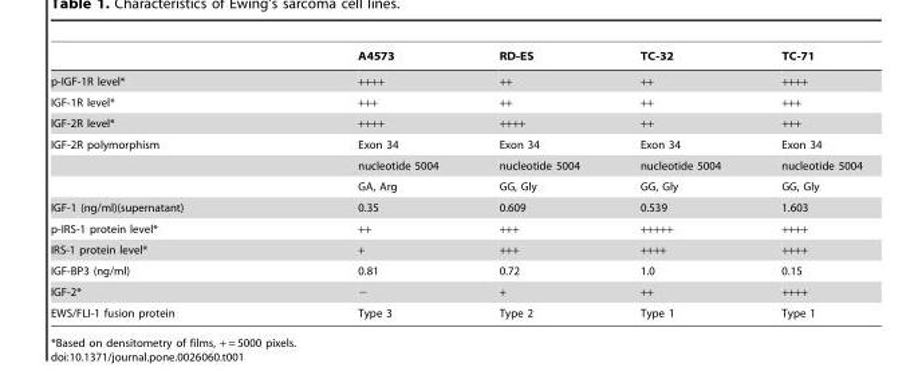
<table><thead><tr><td></td><td>A4573</td><td>RD-ES</td><td>TC-32</td><td>TC-71</td></tr></thead><tbody><tr><td>p-IGF-1R level*</td><td>++++</td><td>++</td><td>++</td><td>++++</td></tr><tr><td>IGF-1R level*</td><td>+++</td><td>++</td><td>++</td><td>+++</td></tr><tr><td>IGF-2R level*</td><td>++++</td><td>++++</td><td>++</td><td>+++</td></tr><tr><td rowspan="3">IGF-2R polymorphism</td><td>Exon 34</td><td>Exon 34</td><td>Exon 34</td><td>Exon 34</td></tr><tr><td>nucleotide 5004</td><td>nucleotide 5004</td><td>nucleotide 5004</td><td>nucleotide 5004</td></tr><tr><td>GA, Arg</td><td>GG, Gly</td><td>GG, Gly</td><td>GG, Gly</td></tr><tr><td>IGF-1 (ng/ml)(supernatant)</td><td>0.35</td><td>0.609</td><td>0.539</td><td>1.603</td></tr><tr><td>p-IRS-1 protein level*</td><td>++</td><td>+++</td><td>+++++</td><td>++++</td></tr><tr><td>IRS-1 protein level*</td><td>+</td><td>+++</td><td>++++</td><td>++++</td></tr><tr><td>IGF-BP3 (ng/ml)</td><td>0.81</td><td>0.72</td><td>1.0</td><td>0.15</td></tr><tr><td>IGF-2*</td><td>−</td><td>+</td><td>++</td><td>++++</td></tr><tr><td>EWS/FLI-1 fusion protein</td><td>Type 3</td><td>Type 2</td><td>Type 1</td><td>Type 1</td></tr></tbody></table>